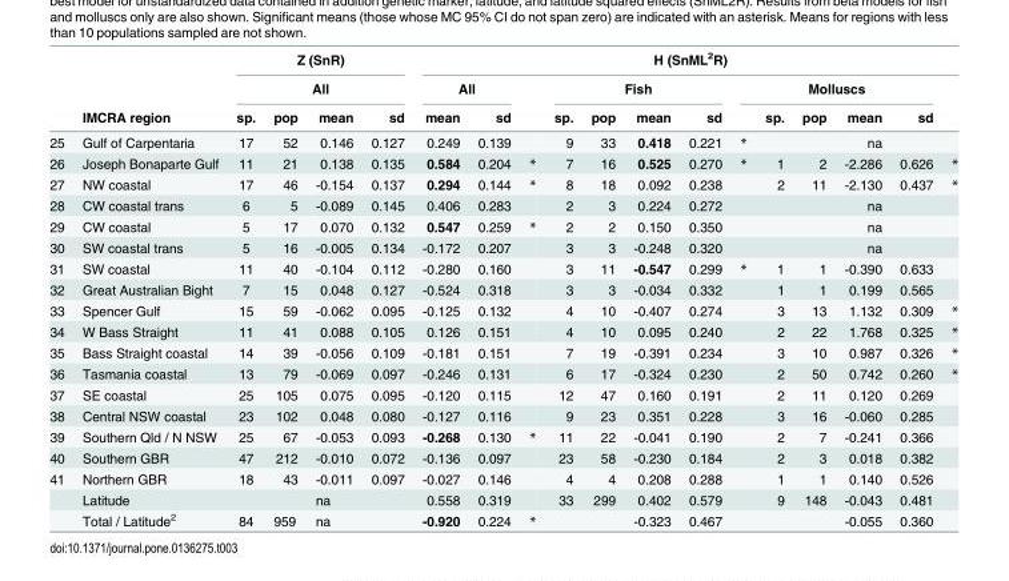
<table><thead><tr><td rowspan="3"></td><td rowspan="3">IMCRA region</td><td colspan="4">Z (SnR)</td><td colspan="13">H (SnML<sup>2</sup>R)</td></tr><tr><td rowspan="2">sp.</td><td rowspan="2">pop</td><td rowspan="2">All mean</td><td rowspan="2">sd</td><td colspan="3">All</td><td rowspan="2">sp.</td><td rowspan="2">pop</td><td rowspan="2">Fish mean</td><td rowspan="2">sd</td><td rowspan="2"></td><td colspan="5">Molluscs</td></tr><tr><td>mean</td><td>sd</td><td></td><td>sp.</td><td>pop</td><td>mean</td><td>sd</td><td></td></tr></thead><tbody><tr><td>25</td><td>Gulf of Carpentaria</td><td>17</td><td>52</td><td>0.146</td><td>0.127</td><td>0.249</td><td>0.139</td><td></td><td>9</td><td>33</td><td>0.418</td><td>0.221</td><td>*</td><td></td><td></td><td>na</td><td></td><td></td></tr><tr><td>26</td><td>Joseph Bonaparte Gulf</td><td>11</td><td>21</td><td>0.138</td><td>0.135</td><td>0.584</td><td>0.204</td><td>*</td><td>7</td><td>16</td><td>0.525</td><td>0.270</td><td>*</td><td>1</td><td>2</td><td>-2.286</td><td>0.626</td><td>*</td></tr><tr><td>27</td><td>NW coastal</td><td>17</td><td>46</td><td>-0.154</td><td>0.137</td><td>0.294</td><td>0.144</td><td>*</td><td>8</td><td>18</td><td>0.092</td><td>0.238</td><td></td><td>2</td><td>11</td><td>-2.130</td><td>0.437</td><td>*</td></tr><tr><td>28</td><td>CW coastal trans</td><td>6</td><td>5</td><td>-0.089</td><td>0.145</td><td>0.406</td><td>0.283</td><td></td><td>2</td><td>3</td><td>0.224</td><td>0.272</td><td></td><td></td><td></td><td>na</td><td></td><td></td></tr><tr><td>29</td><td>CW coastal</td><td>5</td><td>17</td><td>0.070</td><td>0.132</td><td>0.547</td><td>0.259</td><td>*</td><td>2</td><td>2</td><td>0.150</td><td>0.350</td><td></td><td></td><td></td><td>na</td><td></td><td></td></tr><tr><td>30</td><td>SW coastal trans</td><td>5</td><td>16</td><td>-0.005</td><td>0.134</td><td>-0.172</td><td>0.207</td><td></td><td>3</td><td>3</td><td>-0.248</td><td>0.320</td><td></td><td></td><td></td><td>na</td><td></td><td></td></tr><tr><td>31</td><td>SW coastal</td><td>11</td><td>40</td><td>-0.104</td><td>0.112</td><td>-0.280</td><td>0.160</td><td></td><td>3</td><td>11</td><td>-0.547</td><td>0.299</td><td>*</td><td>1</td><td>1</td><td>-0.390</td><td>0.633</td><td></td></tr><tr><td>32</td><td>Great Australian Bight</td><td>7</td><td>15</td><td>0.048</td><td>0.127</td><td>-0.524</td><td>0.318</td><td></td><td>3</td><td>3</td><td>-0.034</td><td>0.332</td><td></td><td>1</td><td>1</td><td>0.199</td><td>0.565</td><td></td></tr><tr><td>33</td><td>Spencer Gulf</td><td>15</td><td>59</td><td>-0.062</td><td>0.095</td><td>-0.125</td><td>0.132</td><td></td><td>4</td><td>10</td><td>-0.407</td><td>0.274</td><td></td><td>3</td><td>13</td><td>1.132</td><td>0.309</td><td>*</td></tr><tr><td>34</td><td>W Bass Straight</td><td>11</td><td>41</td><td>0.088</td><td>0.105</td><td>0.126</td><td>0.151</td><td></td><td>4</td><td>10</td><td>0.095</td><td>0.240</td><td></td><td>2</td><td>22</td><td>1.768</td><td>0.325</td><td>*</td></tr><tr><td>35</td><td>Bass Straight coastal</td><td>14</td><td>39</td><td>-0.056</td><td>0.109</td><td>-0.181</td><td>0.151</td><td></td><td>7</td><td>19</td><td>-0.391</td><td>0.234</td><td></td><td>3</td><td>10</td><td>0.987</td><td>0.326</td><td>*</td></tr><tr><td>36</td><td>Tasmania coastal</td><td>13</td><td>79</td><td>-0.069</td><td>0.097</td><td>-0.246</td><td>0.131</td><td></td><td>6</td><td>17</td><td>-0.324</td><td>0.230</td><td></td><td>2</td><td>50</td><td>0.742</td><td>0.260</td><td>*</td></tr><tr><td>37</td><td>SE coastal</td><td>25</td><td>105</td><td>0.075</td><td>0.095</td><td>-0.120</td><td>0.115</td><td></td><td>12</td><td>47</td><td>0.160</td><td>0.191</td><td></td><td>2</td><td>11</td><td>0.120</td><td>0.269</td><td></td></tr><tr><td>38</td><td>Central NSW coastal</td><td>23</td><td>102</td><td>0.048</td><td>0.080</td><td>-0.127</td><td>0.116</td><td></td><td>9</td><td>23</td><td>0.351</td><td>0.228</td><td></td><td>3</td><td>16</td><td>-0.060</td><td>0.285</td><td></td></tr><tr><td>39</td><td>Southern Qld / N NSW</td><td>25</td><td>67</td><td>-0.053</td><td>0.093</td><td>-0.268</td><td>0.130</td><td>*</td><td>11</td><td>22</td><td>-0.041</td><td>0.190</td><td></td><td>2</td><td>7</td><td>-0.241</td><td>0.366</td><td></td></tr><tr><td>40</td><td>Southern GBR</td><td>47</td><td>212</td><td>-0.010</td><td>0.072</td><td>-0.136</td><td>0.097</td><td></td><td>23</td><td>58</td><td>-0.230</td><td>0.184</td><td></td><td>2</td><td>3</td><td>0.018</td><td>0.382</td><td></td></tr><tr><td rowspan="3">41</td><td>Northern GBR</td><td>18</td><td>43</td><td>-0.011</td><td>0.097</td><td>-0.027</td><td>0.146</td><td></td><td>4</td><td>4</td><td>0.208</td><td>0.288</td><td></td><td>1</td><td>1</td><td>0.140</td><td>0.526</td><td></td></tr><tr><td>Latitude</td><td></td><td></td><td>na</td><td></td><td>0.558</td><td>0.319</td><td></td><td>33</td><td>299</td><td>0.402</td><td>0.579</td><td></td><td>9</td><td>148</td><td>-0.043</td><td>0.481</td><td></td></tr><tr><td>Total / Latitude<sup>2</sup></td><td>84</td><td>959</td><td>na</td><td></td><td>-0.920</td><td>0.224</td><td>*</td><td></td><td></td><td>-0.323</td><td>0.467</td><td></td><td></td><td></td><td>-0.055</td><td>0.360</td><td></td></tr></tbody></table>